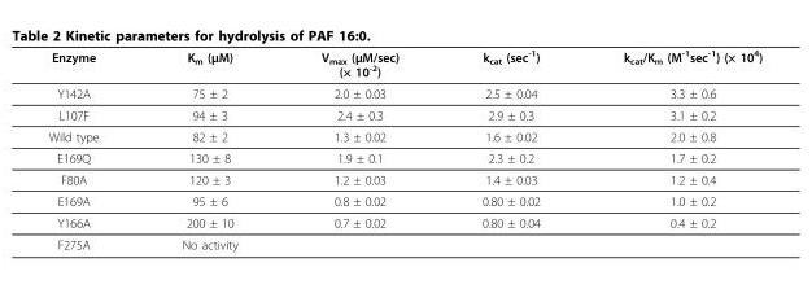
<table><thead><tr><td>Enzyme</td><td>K<sub>m</sub> (μM)</td><td>V<sub>max</sub> (μM/sec) (× 10<sup>-2</sup>)</td><td>k<sub>cat</sub> (sec<sup>-1</sup>)</td><td>k<sub>cat</sub>/K<sub>m</sub> (M<sup>-1</sup>sec<sup>-1</sup>) (× 10<sup>4</sup>)</td></tr></thead><tbody><tr><td>Y142A</td><td>75 ± 2</td><td>2.0 ± 0.03</td><td>2.5 ± 0.04</td><td>3.3 ± 0.6</td></tr><tr><td>L107F</td><td>94 ± 3</td><td>2.4 ± 0.3</td><td>2.9 ± 0.3</td><td>3.1 ± 0.2</td></tr><tr><td>Wild type</td><td>82 ± 2</td><td>1.3 ± 0.02</td><td>1.6 ± 0.02</td><td>2.0 ± 0.8</td></tr><tr><td>E169Q</td><td>130 ± 8</td><td>1.9 ± 0.1</td><td>2.3 ± 0.2</td><td>1.7 ± 0.2</td></tr><tr><td>F80A</td><td>120 ± 3</td><td>1.2 ± 0.03</td><td>1.4 ± 0.03</td><td>1.2 ± 0.4</td></tr><tr><td>E169A</td><td>95 ± 6</td><td>0.8 ± 0.02</td><td>0.80 ± 0.02</td><td>1.0 ± 0.2</td></tr><tr><td>Y166A</td><td>200 ± 10</td><td>0.7 ± 0.02</td><td>0.80 ± 0.04</td><td>0.4 ± 0.2</td></tr><tr><td>F275A</td><td>No activity</td><td></td><td></td><td></td></tr></tbody></table>